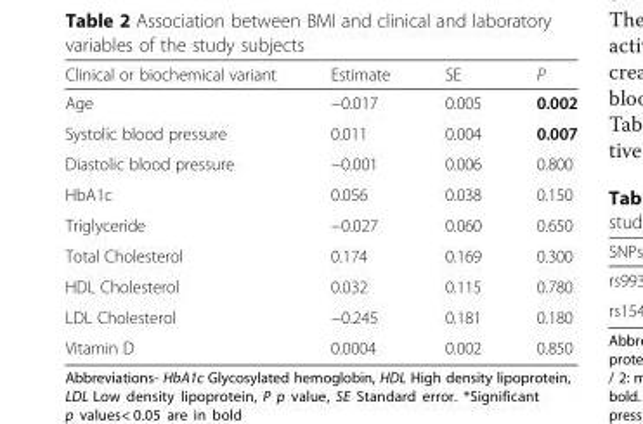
<table><thead><tr><td>Clinical or biochemical variant</td><td>Estimate</td><td>SE</td><td>P</td></tr></thead><tbody><tr><td>Age</td><td>−0.017</td><td>0.005</td><td>0.002</td></tr><tr><td>Systolic blood pressure</td><td>0.011</td><td>0.004</td><td>0.007</td></tr><tr><td>Diastolic blood pressure</td><td>−0.001</td><td>0.006</td><td>0.800</td></tr><tr><td>HbA1c</td><td>0.056</td><td>0.038</td><td>0.150</td></tr><tr><td>Triglyceride</td><td>−0.027</td><td>0.060</td><td>0.650</td></tr><tr><td>Total Cholesterol</td><td>0.174</td><td>0.169</td><td>0.300</td></tr><tr><td>HDL Cholesterol</td><td>0.032</td><td>0.115</td><td>0.780</td></tr><tr><td>LDL Cholesterol</td><td>−0.245</td><td>0.181</td><td>0.180</td></tr><tr><td>Vitamin D</td><td>0.0004</td><td>0.002</td><td>0.850</td></tr></tbody></table>